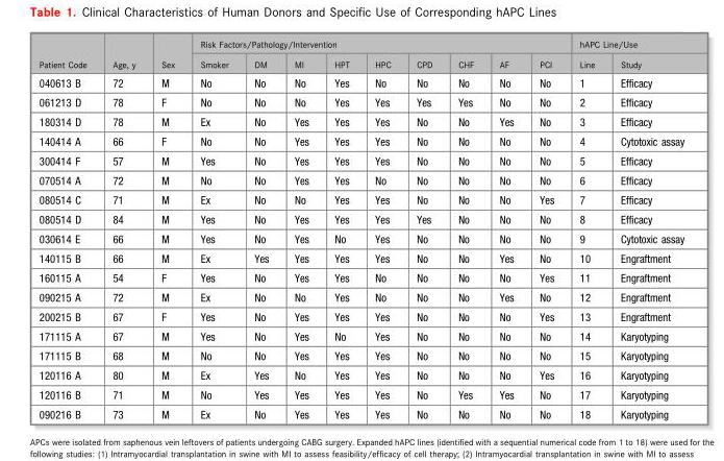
<table><thead><tr><td rowspan="2">Patient Code</td><td rowspan="2">Age, y</td><td rowspan="2">Sex</td><td colspan="9">Risk Factors/Pathology/Intervention</td><td colspan="2">hAPC Line/Use</td></tr><tr><td>Smoker</td><td>DM</td><td>MI</td><td>HPT</td><td>HPC</td><td>CPD</td><td>CHF</td><td>AF</td><td>PCI</td><td>Line</td><td>Study</td></tr></thead><tbody><tr><td>040613 B</td><td>72</td><td>M</td><td>No</td><td>No</td><td>No</td><td>Yes</td><td>No</td><td>No</td><td>No</td><td>No</td><td>No</td><td>1</td><td>Efficacy</td></tr><tr><td>061213 D</td><td>78</td><td>F</td><td>No</td><td>No</td><td>No</td><td>Yes</td><td>Yes</td><td>Yes</td><td>Yes</td><td>No</td><td>No</td><td>2</td><td>Efficacy</td></tr><tr><td>180314 D</td><td>78</td><td>M</td><td>Ex</td><td>No</td><td>Yes</td><td>Yes</td><td>Yes</td><td>No</td><td>No</td><td>Yes</td><td>No</td><td>3</td><td>Efficacy</td></tr><tr><td>140414 A</td><td>66</td><td>F</td><td>No</td><td>No</td><td>Yes</td><td>Yes</td><td>Yes</td><td>No</td><td>No</td><td>No</td><td>No</td><td>4</td><td>Cytotoxic assay</td></tr><tr><td>300414 F</td><td>57</td><td>M</td><td>Yes</td><td>No</td><td>Yes</td><td>Yes</td><td>Yes</td><td>No</td><td>No</td><td>No</td><td>No</td><td>5</td><td>Efficacy</td></tr><tr><td>070514 A</td><td>72</td><td>M</td><td>No</td><td>No</td><td>Yes</td><td>Yes</td><td>No</td><td>No</td><td>No</td><td>No</td><td>No</td><td>6</td><td>Efficacy</td></tr><tr><td>080514 C</td><td>71</td><td>M</td><td>Ex</td><td>No</td><td>No</td><td>Yes</td><td>Yes</td><td>No</td><td>No</td><td>No</td><td>Yes</td><td>7</td><td>Efficacy</td></tr><tr><td>080514 D</td><td>84</td><td>M</td><td>Yes</td><td>No</td><td>Yes</td><td>Yes</td><td>Yes</td><td>Yes</td><td>No</td><td>No</td><td>No</td><td>8</td><td>Efficacy</td></tr><tr><td>030614 E</td><td>66</td><td>M</td><td>Yes</td><td>No</td><td>Yes</td><td>No</td><td>Yes</td><td>No</td><td>No</td><td>No</td><td>No</td><td>9</td><td>Cytotoxic assay</td></tr><tr><td>140115 B</td><td>66</td><td>M</td><td>Ex</td><td>Yes</td><td>Yes</td><td>Yes</td><td>Yes</td><td>No</td><td>No</td><td>Yes</td><td>No</td><td>10</td><td>Engraftment</td></tr><tr><td>160115 A</td><td>54</td><td>F</td><td>Yes</td><td>No</td><td>Yes</td><td>Yes</td><td>No</td><td>No</td><td>No</td><td>No</td><td>Yes</td><td>11</td><td>Engraftment</td></tr><tr><td>090215 A</td><td>72</td><td>M</td><td>Ex</td><td>No</td><td>No</td><td>Yes</td><td>No</td><td>No</td><td>No</td><td>Yes</td><td>No</td><td>12</td><td>Engraftment</td></tr><tr><td>200215 B</td><td>67</td><td>F</td><td>Yes</td><td>No</td><td>Yes</td><td>Yes</td><td>Yes</td><td>No</td><td>No</td><td>No</td><td>Yes</td><td>13</td><td>Engraftment</td></tr><tr><td>171115 A</td><td>67</td><td>M</td><td>Yes</td><td>No</td><td>Yes</td><td>No</td><td>Yes</td><td>No</td><td>No</td><td>No</td><td>No</td><td>14</td><td>Karyotyping</td></tr><tr><td>171115 B</td><td>68</td><td>M</td><td>No</td><td>No</td><td>Yes</td><td>Yes</td><td>Yes</td><td>No</td><td>No</td><td>No</td><td>No</td><td>15</td><td>Karyotyping</td></tr><tr><td>120116 A</td><td>80</td><td>M</td><td>Ex</td><td>Yes</td><td>No</td><td>Yes</td><td>Yes</td><td>No</td><td>No</td><td>No</td><td>Yes</td><td>16</td><td>Karyotyping</td></tr><tr><td>120116 B</td><td>71</td><td>M</td><td>No</td><td>Yes</td><td>Yes</td><td>Yes</td><td>Yes</td><td>No</td><td>Yes</td><td>Yes</td><td>No</td><td>17</td><td>Karyotyping</td></tr><tr><td>090216 B</td><td>73</td><td>M</td><td>Ex</td><td>No</td><td>Yes</td><td>Yes</td><td>Yes</td><td>No</td><td>No</td><td>No</td><td>No</td><td>18</td><td>Karyotyping</td></tr></tbody></table>